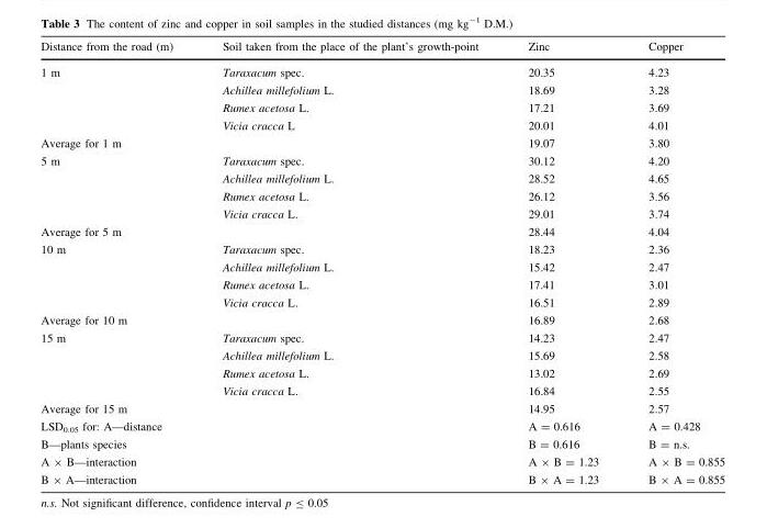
<table><thead><tr><td>Distance from the road (m)</td><td>Soil taken from the place of the plant’s growth-point</td><td>Zinc</td><td>Copper</td></tr></thead><tbody><tr><td rowspan="4">1 m</td><td>Taraxacum spec.</td><td>20.35</td><td>4.23</td></tr><tr><td>Achillea millefolium L.</td><td>18.69</td><td>3.28</td></tr><tr><td>Rumex acetosa L.</td><td>17.21</td><td>3.69</td></tr><tr><td>Vicia cracca L</td><td>20.01</td><td>4.01</td></tr><tr><td colspan="2">Average for 1 m</td><td>19.07</td><td>3.80</td></tr><tr><td rowspan="4">5 m</td><td>Taraxacum spec.</td><td>30.12</td><td>4.20</td></tr><tr><td>Achillea millefolium L.</td><td>28.52</td><td>4.65</td></tr><tr><td>Rumex acetosa L.</td><td>26.12</td><td>3.56</td></tr><tr><td>Vicia cracca L.</td><td>29.01</td><td>3.74</td></tr><tr><td colspan="2">Average for 5 m</td><td>28.44</td><td>4.04</td></tr><tr><td rowspan="4">10 m</td><td>Taraxacum spec.</td><td>18.23</td><td>2.36</td></tr><tr><td>Achillea millefolium L.</td><td>15.42</td><td>2.47</td></tr><tr><td>Rumex acetosa L.</td><td>17.41</td><td>3.01</td></tr><tr><td>Vicia cracca L.</td><td>16.51</td><td>2.89</td></tr><tr><td colspan="2">Average for 10 m</td><td>16.89</td><td>2.68</td></tr><tr><td rowspan="4">15 m</td><td>Taraxacum spec.</td><td>14.23</td><td>2.47</td></tr><tr><td>Achillea millefolium L.</td><td>15.69</td><td>2.58</td></tr><tr><td>Rumex acetosa L.</td><td>13.02</td><td>2.69</td></tr><tr><td>Vicia cracca L.</td><td>16.84</td><td>2.55</td></tr><tr><td colspan="2">Average for 15 m</td><td>14.95</td><td>2.57</td></tr><tr><td>LSD<sub>0.05</sub> for: A—distance</td><td></td><td>A = 0.616</td><td>A = 0.428</td></tr><tr><td>B—plants species</td><td></td><td>B = 0.616</td><td>B = n.s.</td></tr><tr><td>A × B—interaction</td><td></td><td>A × B = 1.23</td><td>A × B = 0.855</td></tr><tr><td>B × A—interaction</td><td></td><td>B × A = 1.23</td><td>B × A = 0.855</td></tr></tbody></table>